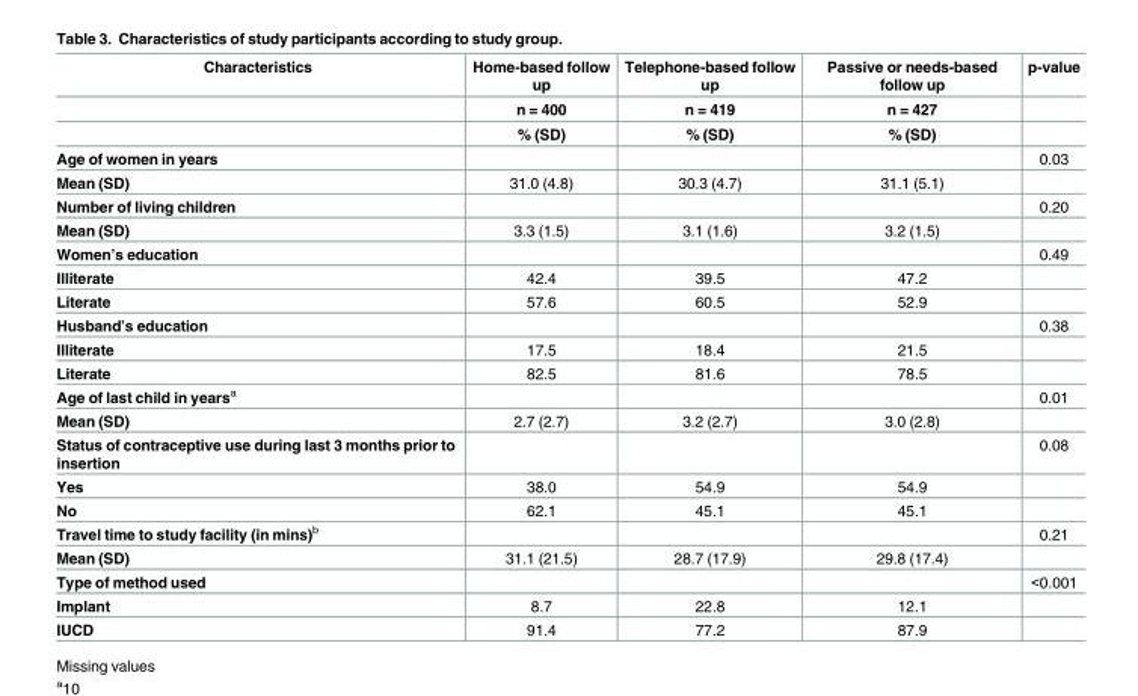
<table><thead><tr><td rowspan="3">Characteristics</td><td rowspan="3">Home-based follow up n = 400 % (SD)</td><td rowspan="3">Telephone-based follow up n = 419 % (SD)</td><td rowspan="3">Passive or needs-based follow up n = 427 % (SD)</td><td rowspan="3">p-value</td></tr><tr></tr><tr></tr></thead><tbody><tr><td>Age of women in years</td><td></td><td></td><td></td><td>0.03</td></tr><tr><td>Mean (SD)</td><td>31.0 (4.8)</td><td>30.3 (4.7)</td><td>31.1 (5.1)</td><td></td></tr><tr><td>Number of living children</td><td></td><td></td><td></td><td>0.20</td></tr><tr><td>Mean (SD)</td><td>3.3 (1.5)</td><td>3.1 (1.6)</td><td>3.2 (1.5)</td><td></td></tr><tr><td>Women’s education</td><td></td><td></td><td></td><td>0.49</td></tr><tr><td>Illiterate</td><td>42.4</td><td>39.5</td><td>47.2</td><td></td></tr><tr><td>Literate</td><td>57.6</td><td>60.5</td><td>52.9</td><td></td></tr><tr><td>Husband’s education</td><td></td><td></td><td></td><td>0.38</td></tr><tr><td>Illiterate</td><td>17.5</td><td>18.4</td><td>21.5</td><td></td></tr><tr><td>Literate</td><td>82.5</td><td>81.6</td><td>78.5</td><td></td></tr><tr><td>Age of last child in years<sup>a</sup></td><td></td><td></td><td></td><td>0.01</td></tr><tr><td>Mean (SD)</td><td>2.7 (2.7)</td><td>3.2 (2.7)</td><td>3.0 (2.8)</td><td></td></tr><tr><td>Status of contraceptive use during last 3 months prior to insertion</td><td></td><td></td><td></td><td>0.08</td></tr><tr><td>Yes</td><td>38.0</td><td>54.9</td><td>54.9</td><td></td></tr><tr><td>No</td><td>62.1</td><td>45.1</td><td>45.1</td><td></td></tr><tr><td>Travel time to study facility (in mins)<sup>b</sup></td><td></td><td></td><td></td><td>0.21</td></tr><tr><td>Mean (SD)</td><td>31.1 (21.5)</td><td>28.7 (17.9)</td><td>29.8 (17.4)</td><td></td></tr><tr><td>Type of method used</td><td></td><td></td><td></td><td>&lt;0.001</td></tr><tr><td>Implant</td><td>8.7</td><td>22.8</td><td>12.1</td><td></td></tr><tr><td>IUCD</td><td>91.4</td><td>77.2</td><td>87.9</td><td></td></tr></tbody></table>